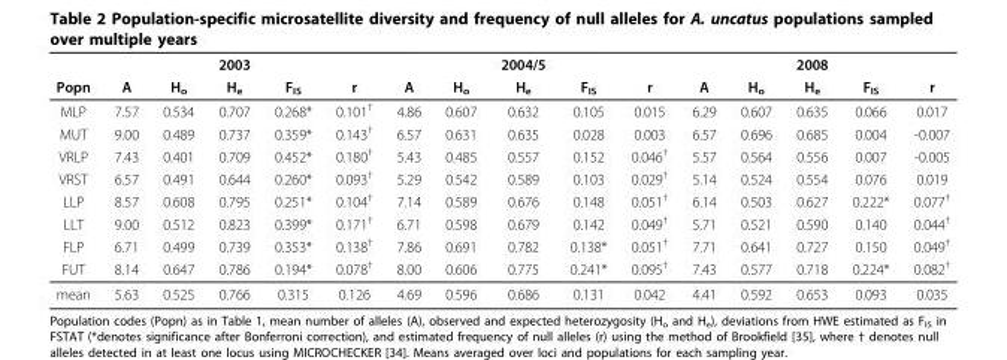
<table><thead><tr><td rowspan="2">Popn</td><td rowspan="2">A</td><td rowspan="2">H<sub>o</sub></td><td rowspan="2">2003 H<sub>e</sub></td><td rowspan="2">F<sub>IS</sub></td><td rowspan="2">r</td><td rowspan="2">A</td><td rowspan="2">H<sub>o</sub></td><td rowspan="2">2004/5 H<sub>e</sub></td><td rowspan="2">F<sub>IS</sub></td><td rowspan="2">r</td><td rowspan="2">A</td><td rowspan="2">H<sub>o</sub></td><td rowspan="2">2008 H<sub>e</sub></td><td rowspan="2">F<sub>IS</sub></td><td rowspan="2">r</td></tr><tr></tr></thead><tbody><tr><td>MLP</td><td>7.57</td><td>0.534</td><td>0.707</td><td>0.268*</td><td>0.101<sup>†</sup></td><td>4.86</td><td>0.607</td><td>0.632</td><td>0.105</td><td>0.015</td><td>6.29</td><td>0.607</td><td>0.635</td><td>0.066</td><td>0.017</td></tr><tr><td>MUT</td><td>9.00</td><td>0.489</td><td>0.737</td><td>0.359*</td><td>0.143<sup>†</sup></td><td>6.57</td><td>0.631</td><td>0.635</td><td>0.028</td><td>0.003</td><td>6.57</td><td>0.696</td><td>0.685</td><td>0.004</td><td>-0.007</td></tr><tr><td>VRLP</td><td>7.43</td><td>0.401</td><td>0.709</td><td>0.452*</td><td>0.180<sup>†</sup></td><td>5.43</td><td>0.485</td><td>0.557</td><td>0.152</td><td>0.046<sup>†</sup></td><td>5.57</td><td>0.564</td><td>0.556</td><td>0.007</td><td>-0.005</td></tr><tr><td>VRST</td><td>6.57</td><td>0.491</td><td>0.644</td><td>0.260*</td><td>0.093<sup>†</sup></td><td>5.29</td><td>0.542</td><td>0.589</td><td>0.103</td><td>0.029<sup>†</sup></td><td>5.14</td><td>0.524</td><td>0.554</td><td>0.076</td><td>0.019</td></tr><tr><td>LLP</td><td>8.57</td><td>0.608</td><td>0.795</td><td>0.251*</td><td>0.104<sup>†</sup></td><td>7.14</td><td>0.589</td><td>0.676</td><td>0.148</td><td>0.051<sup>†</sup></td><td>6.14</td><td>0.503</td><td>0.627</td><td>0.222*</td><td>0.077<sup>†</sup></td></tr><tr><td>LLT</td><td>9.00</td><td>0.512</td><td>0.823</td><td>0.399*</td><td>0.171<sup>†</sup></td><td>6.71</td><td>0.598</td><td>0.679</td><td>0.142</td><td>0.049<sup>†</sup></td><td>5.71</td><td>0.521</td><td>0.590</td><td>0.140</td><td>0.044<sup>†</sup></td></tr><tr><td>FLP</td><td>6.71</td><td>0.499</td><td>0.739</td><td>0.353*</td><td>0.138<sup>†</sup></td><td>7.86</td><td>0.691</td><td>0.782</td><td>0.138*</td><td>0.051<sup>†</sup></td><td>7.71</td><td>0.641</td><td>0.727</td><td>0.150</td><td>0.049<sup>†</sup></td></tr><tr><td>FUT</td><td>8.14</td><td>0.647</td><td>0.786</td><td>0.194*</td><td>0.078<sup>†</sup></td><td>8.00</td><td>0.606</td><td>0.775</td><td>0.241*</td><td>0.095<sup>†</sup></td><td>7.43</td><td>0.577</td><td>0.718</td><td>0.224*</td><td>0.082<sup>†</sup></td></tr><tr><td>mean</td><td>5.63</td><td>0.525</td><td>0.766</td><td>0.315</td><td>0.126</td><td>4.69</td><td>0.596</td><td>0.686</td><td>0.131</td><td>0.042</td><td>4.41</td><td>0.592</td><td>0.653</td><td>0.093</td><td>0.035</td></tr></tbody></table>